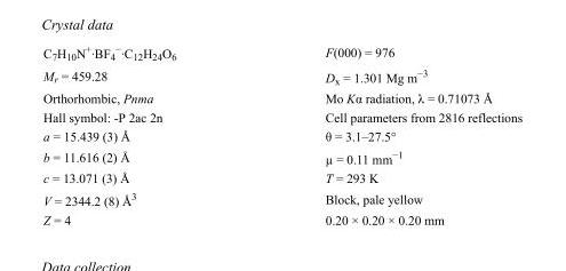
<table><tbody><tr><td>C<sub>7</sub>H<sub>10</sub>N<sup>+</sup>·BF<sub>4</sub> <sup>−</sup>·C<sub>12</sub>H<sub>24</sub>O<sub>6</sub></td><td>F(000) = 976</td></tr><tr><td>M<sub>r</sub> = 459.28</td><td>D<sub>x</sub> = 1.301 Mg m<sup>−3</sup></td></tr><tr><td>Orthorhombic, Pnma</td><td>Mo Kα radiation, λ = 0.71073 Å</td></tr><tr><td>Hall symbol: -P 2ac 2n</td><td>Cell parameters from 2816 reflections</td></tr><tr><td>a = 15.439 (3) Å</td><td>θ = 3.1–27.5°</td></tr><tr><td>b = 11.616 (2) Å</td><td>µ = 0.11 mm<sup>−1</sup></td></tr><tr><td>c = 13.071 (3) Å</td><td>T = 293 K</td></tr><tr><td>V = 2344.2 (8) Å<sup>3</sup></td><td>Block, pale yellow</td></tr><tr><td>Z = 4</td><td>0.20 × 0.20 × 0.20 mm</td></tr></tbody></table>